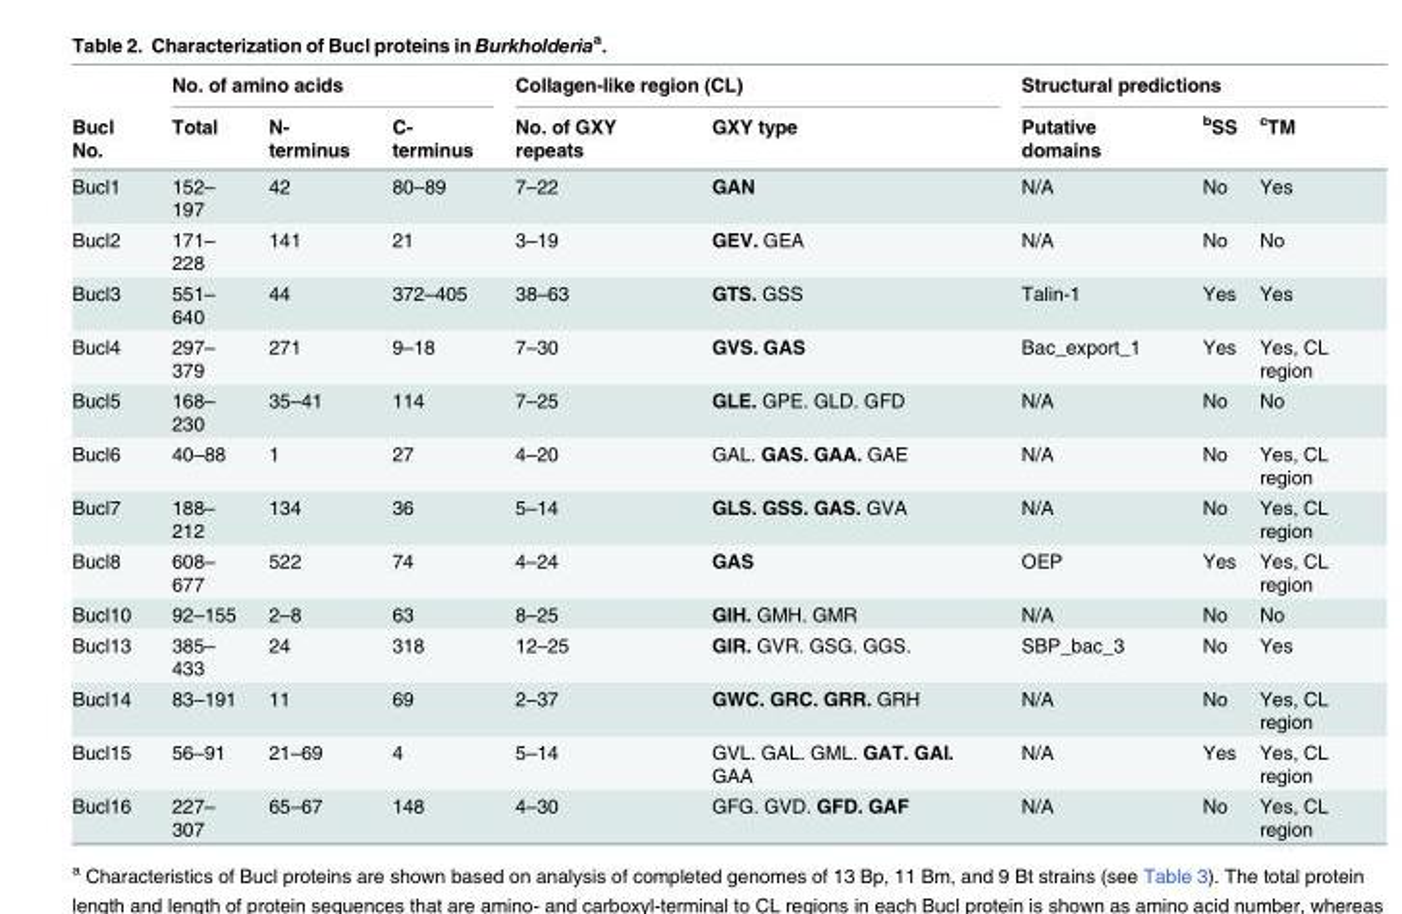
<table><thead><tr><td rowspan="2">Bucl No.</td><td colspan="3">No. of amino acids</td><td colspan="2">Collagen-like region (CL)</td><td colspan="3">Structural predictions</td></tr><tr><td>Total</td><td>N- terminus</td><td>C- terminus</td><td>No. of GXY repeats</td><td>GXY type</td><td>Putative domains</td><td><sup>b</sup>SS</td><td><sup>c</sup>TM</td></tr></thead><tbody><tr><td>Bucl1</td><td>152– 197</td><td>42</td><td>80–89</td><td>7–22</td><td>GAN</td><td>N/A</td><td>No</td><td>Yes</td></tr><tr><td>Bucl2</td><td>171– 228</td><td>141</td><td>21</td><td>3–19</td><td>GEV. GEA</td><td>N/A</td><td>No</td><td>No</td></tr><tr><td>Bucl3</td><td>551– 640</td><td>44</td><td>372–405</td><td>38–63</td><td>GTS. GSS</td><td>Talin-1</td><td>Yes</td><td>Yes</td></tr><tr><td>Bucl4</td><td>297– 379</td><td>271</td><td>9–18</td><td>7–30</td><td>GVS. GAS</td><td>Bac_export_1</td><td>Yes</td><td>Yes, CL region</td></tr><tr><td>Bucl5</td><td>168– 230</td><td>35–41</td><td>114</td><td>7–25</td><td>GLE. GPE. GLD. GFD</td><td>N/A</td><td>No</td><td>No</td></tr><tr><td>Bucl6</td><td>40–88</td><td>1</td><td>27</td><td>4–20</td><td>GAL. GAS. GAA. GAE</td><td>N/A</td><td>No</td><td>Yes, CL region</td></tr><tr><td>Bucl7</td><td>188– 212</td><td>134</td><td>36</td><td>5–14</td><td>GLS. GSS. GAS. GVA</td><td>N/A</td><td>No</td><td>Yes, CL region</td></tr><tr><td>Bucl8</td><td>608– 677</td><td>522</td><td>74</td><td>4–24</td><td>GAS</td><td>OEP</td><td>Yes</td><td>Yes, CL region</td></tr><tr><td>Bucl10</td><td>92–155</td><td>2–8</td><td>63</td><td>8–25</td><td>GIH. GMH. GMR</td><td>N/A</td><td>No</td><td>No</td></tr><tr><td>Bucl13</td><td>385– 433</td><td>24</td><td>318</td><td>12–25</td><td>GIR. GVR. GSG. GGS.</td><td>SBP_bac_3</td><td>No</td><td>Yes</td></tr><tr><td>Bucl14</td><td>83–191</td><td>11</td><td>69</td><td>2–37</td><td>GWC. GRC. GRR. GRH</td><td>N/A</td><td>No</td><td>Yes, CL region</td></tr><tr><td>Bucl15</td><td>56–91</td><td>21–69</td><td>4</td><td>5–14</td><td>GVL. GAL. GML. GAT. GAI. GAA</td><td>N/A</td><td>Yes</td><td>Yes, CL region</td></tr><tr><td>Bucl16</td><td>227– 307</td><td>65–67</td><td>148</td><td>4–30</td><td>GFG. GVD. GFD. GAF</td><td>N/A</td><td>No</td><td>Yes, CL region</td></tr></tbody></table>